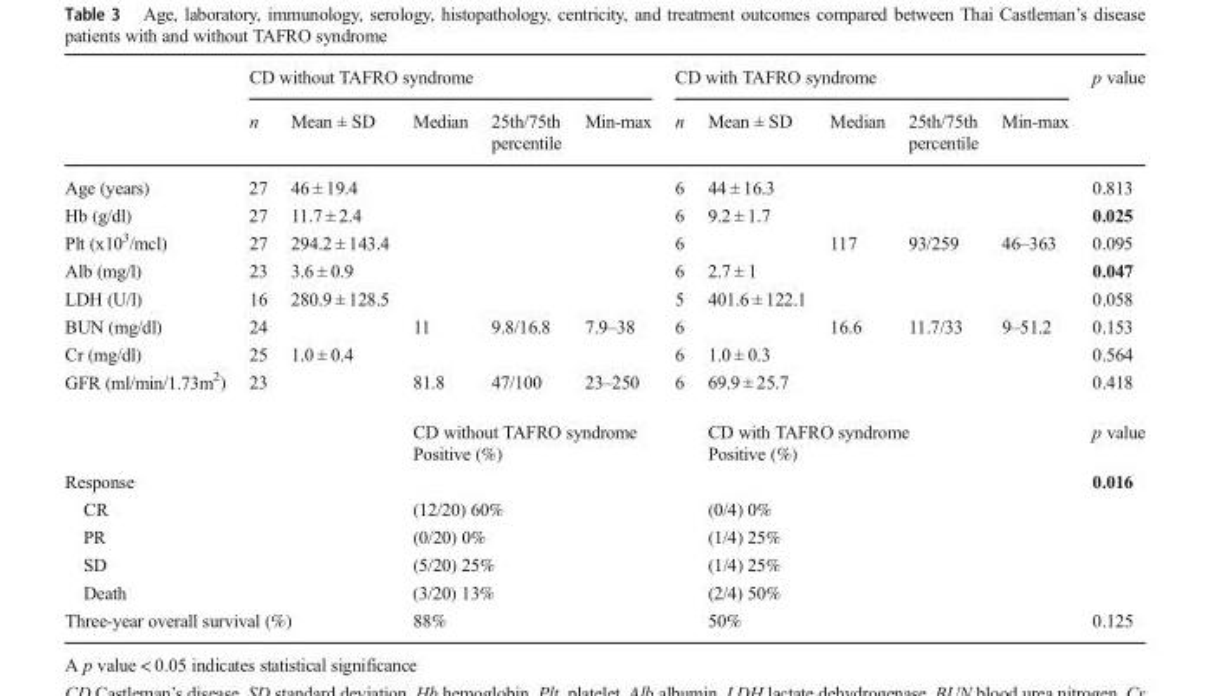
<table><thead><tr><td rowspan="2"></td><td colspan="5">CD without TAFRO syndrome</td><td colspan="5">CD with TAFRO syndrome</td><td rowspan="2">p value</td></tr><tr><td>n</td><td>Mean ± SD</td><td>Median</td><td>25th/75th percentile</td><td>Min-max</td><td>n</td><td>Mean ± SD</td><td>Median</td><td>25th/75th percentile</td><td>Min-max</td></tr></thead><tbody><tr><td>Age (years)</td><td>27</td><td>46 ± 19.4</td><td></td><td></td><td></td><td>6</td><td>44 ± 16.3</td><td></td><td></td><td></td><td>0.813</td></tr><tr><td>Hb (g/dl)</td><td>27</td><td>11.7 ± 2.4</td><td></td><td></td><td></td><td>6</td><td>9.2 ± 1.7</td><td></td><td></td><td></td><td>0.025</td></tr><tr><td>Plt (x10<sup>3</sup>/mcl)</td><td>27</td><td>294.2 ± 143.4</td><td></td><td></td><td></td><td>6</td><td></td><td>117</td><td>93/259</td><td>46–363</td><td>0.095</td></tr><tr><td>Alb (mg/l)</td><td>23</td><td>3.6 ± 0.9</td><td></td><td></td><td></td><td>6</td><td>2.7 ± 1</td><td></td><td></td><td></td><td>0.047</td></tr><tr><td>LDH (U/l)</td><td>16</td><td>280.9 ± 128.5</td><td></td><td></td><td></td><td>5</td><td>401.6 ± 122.1</td><td></td><td></td><td></td><td>0.058</td></tr><tr><td>BUN (mg/dl)</td><td>24</td><td></td><td>11</td><td>9.8/16.8</td><td>7.9–38</td><td>6</td><td></td><td>16.6</td><td>11.7/33</td><td>9–51.2</td><td>0.153</td></tr><tr><td>Cr (mg/dl)</td><td>25</td><td>1.0 ± 0.4</td><td></td><td></td><td></td><td>6</td><td>1.0 ± 0.3</td><td></td><td></td><td></td><td>0.564</td></tr><tr><td>GFR (ml/min/1.73m<sup>2</sup>)</td><td>23</td><td></td><td>81.8</td><td>47/100</td><td>23–250</td><td>6</td><td>69.9 ± 25.7</td><td></td><td></td><td></td><td>0.418</td></tr><tr><td rowspan="2" colspan="3"></td><td colspan="4">CD without TAFRO syndrome</td><td colspan="3">CD with TAFRO syndrome</td><td></td><td rowspan="2">p value</td></tr><tr><td colspan="4">Positive (%)</td><td colspan="3">Positive (%)</td><td></td></tr><tr><td colspan="3">Response</td><td colspan="4"></td><td colspan="3"></td><td></td><td>0.016</td></tr><tr><td colspan="3">CR</td><td colspan="4">(12/20) 60%</td><td colspan="3">(0/4) 0%</td><td colspan="2"></td></tr><tr><td colspan="3">PR</td><td colspan="4">(0/20) 0%</td><td colspan="3">(1/4) 25%</td><td colspan="2"></td></tr><tr><td colspan="3">SD</td><td colspan="4">(5/20) 25%</td><td colspan="3">(1/4) 25%</td><td colspan="2"></td></tr><tr><td colspan="3">Death</td><td colspan="4">(3/20) 13%</td><td colspan="3">(2/4) 50%</td><td colspan="2"></td></tr><tr><td colspan="3">Three-year overall survival (%)</td><td colspan="4">88%</td><td colspan="3">50%</td><td></td><td>0.125</td></tr></tbody></table>